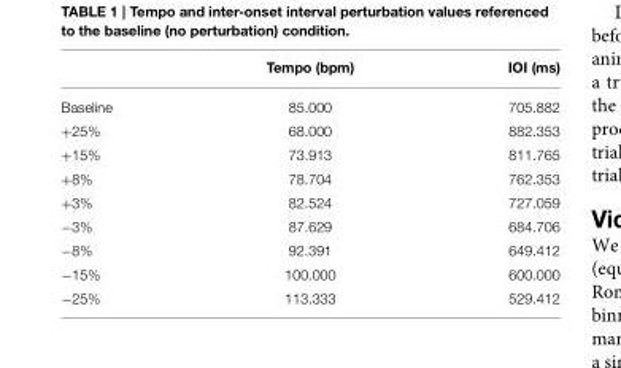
<table><thead><tr><td></td><td>Tempo (bpm)</td><td>IOI (ms)</td></tr></thead><tbody><tr><td>Baseline</td><td>85.000</td><td>705.882</td></tr><tr><td>+25%</td><td>68.000</td><td>882.353</td></tr><tr><td>+15%</td><td>73.913</td><td>811.765</td></tr><tr><td>+8%</td><td>78.704</td><td>762.353</td></tr><tr><td>+3%</td><td>82.524</td><td>727.059</td></tr><tr><td>−3%</td><td>87.629</td><td>684.706</td></tr><tr><td>−8%</td><td>92.391</td><td>649.412</td></tr><tr><td>−15%</td><td>100.000</td><td>600.000</td></tr><tr><td>−25%</td><td>113.333</td><td>529.412</td></tr></tbody></table>